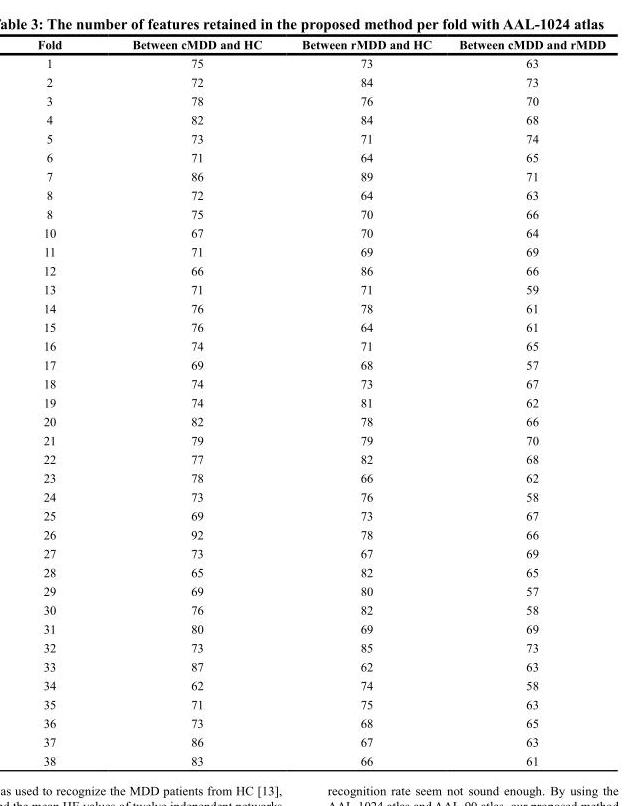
<table><thead><tr><td>Fold</td><td>Between cMDD and HC</td><td>Between rMDD and HC</td><td>Between cMDD and rMDD</td></tr></thead><tbody><tr><td>1</td><td>75</td><td>73</td><td>63</td></tr><tr><td>2</td><td>72</td><td>84</td><td>73</td></tr><tr><td>3</td><td>78</td><td>76</td><td>70</td></tr><tr><td>4</td><td>82</td><td>84</td><td>68</td></tr><tr><td>5</td><td>73</td><td>71</td><td>74</td></tr><tr><td>6</td><td>71</td><td>64</td><td>65</td></tr><tr><td>7</td><td>86</td><td>89</td><td>71</td></tr><tr><td>8</td><td>72</td><td>64</td><td>63</td></tr><tr><td>8</td><td>75</td><td>70</td><td>66</td></tr><tr><td>10</td><td>67</td><td>70</td><td>64</td></tr><tr><td>11</td><td>71</td><td>69</td><td>69</td></tr><tr><td>12</td><td>66</td><td>86</td><td>66</td></tr><tr><td>13</td><td>71</td><td>71</td><td>59</td></tr><tr><td>14</td><td>76</td><td>78</td><td>61</td></tr><tr><td>15</td><td>76</td><td>64</td><td>61</td></tr><tr><td>16</td><td>74</td><td>71</td><td>65</td></tr><tr><td>17</td><td>69</td><td>68</td><td>57</td></tr><tr><td>18</td><td>74</td><td>73</td><td>67</td></tr><tr><td>19</td><td>74</td><td>81</td><td>62</td></tr><tr><td>20</td><td>82</td><td>78</td><td>66</td></tr><tr><td>21</td><td>79</td><td>79</td><td>70</td></tr><tr><td>22</td><td>77</td><td>82</td><td>68</td></tr><tr><td>23</td><td>78</td><td>66</td><td>62</td></tr><tr><td>24</td><td>73</td><td>76</td><td>58</td></tr><tr><td>25</td><td>69</td><td>73</td><td>67</td></tr><tr><td>26</td><td>92</td><td>78</td><td>66</td></tr><tr><td>27</td><td>73</td><td>67</td><td>69</td></tr><tr><td>28</td><td>65</td><td>82</td><td>65</td></tr><tr><td>29</td><td>69</td><td>80</td><td>57</td></tr><tr><td>30</td><td>76</td><td>82</td><td>58</td></tr><tr><td>31</td><td>80</td><td>69</td><td>69</td></tr><tr><td>32</td><td>73</td><td>85</td><td>73</td></tr><tr><td>33</td><td>87</td><td>62</td><td>63</td></tr><tr><td>34</td><td>62</td><td>74</td><td>58</td></tr><tr><td>35</td><td>71</td><td>75</td><td>63</td></tr><tr><td>36</td><td>73</td><td>68</td><td>65</td></tr><tr><td>37</td><td>86</td><td>67</td><td>63</td></tr><tr><td>38</td><td>83</td><td>66</td><td>61</td></tr></tbody></table>